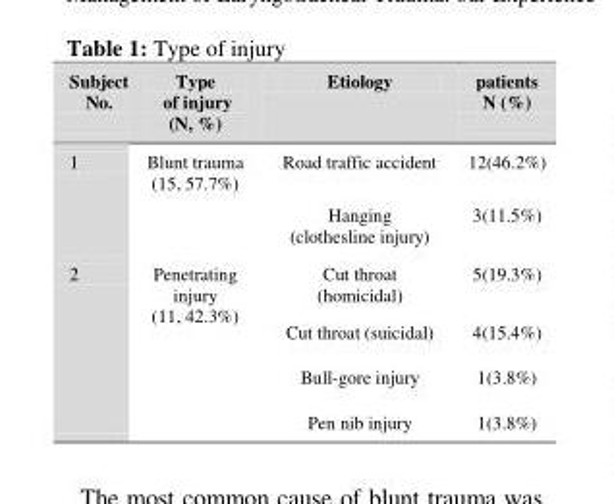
<table><thead><tr><td>Subject No.</td><td>Type of injury (N, %)</td><td>Etiology</td><td>patients N (%)</td></tr></thead><tbody><tr><td rowspan="2">1</td><td rowspan="2">Blunt trauma (15, 57.7%)</td><td>Road traffic accident</td><td>12(46.2%)</td></tr><tr><td>Hanging (clothesline injury)</td><td>3(11.5%)</td></tr><tr><td rowspan="4">2</td><td rowspan="4">Penetrating injury (11, 42.3%)</td><td>Cut throat (homicidal)</td><td>5(19.3%)</td></tr><tr><td>Cut throat (suicidal)</td><td>4(15.4%)</td></tr><tr><td>Bull-gore injury</td><td>1(3.8%)</td></tr><tr><td>Pen nib injury</td><td>1(3.8%)</td></tr></tbody></table>